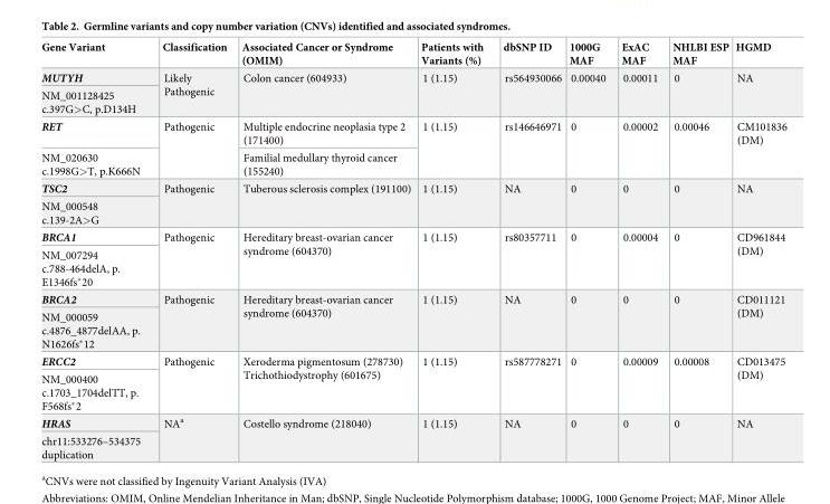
<table><thead><tr><td>Gene Variant</td><td>Classification</td><td>Associated Cancer or Syndrome (OMIM)</td><td>Patients with Variants (%)</td><td>dbSNP ID</td><td>1000G MAF</td><td>ExAC MAF</td><td>NHLBI ESP MAF</td><td>HGMD</td></tr></thead><tbody><tr><td>MUTYH</td><td rowspan="2">Likely Pathogenic</td><td rowspan="2">Colon cancer (604933)</td><td rowspan="2">1 (1.15)</td><td rowspan="2">rs564930066</td><td rowspan="2">0.00040</td><td rowspan="2">0.00011</td><td rowspan="2">0</td><td rowspan="2">NA</td></tr><tr><td>NM_001128425 c.397G&gt;C, p.D134H</td></tr><tr><td>RET</td><td rowspan="2">Pathogenic</td><td>Multiple endocrine neoplasia type 2 (171400)</td><td rowspan="2">1 (1.15)</td><td rowspan="2">rs146646971</td><td rowspan="2">0</td><td rowspan="2">0.00002</td><td rowspan="2">0.00046</td><td rowspan="2">CM101836 (DM)</td></tr><tr><td>NM_020630 c.1998G&gt;T, p.K666N</td><td>Familial medullary thyroid cancer (155240)</td></tr><tr><td>TSC2</td><td rowspan="2">Pathogenic</td><td rowspan="2">Tuberous sclerosis complex (191100)</td><td rowspan="2">1 (1.15)</td><td rowspan="2">NA</td><td rowspan="2">0</td><td rowspan="2">0</td><td rowspan="2">0</td><td rowspan="2">NA</td></tr><tr><td>NM_000548 c.139-2A&gt;G</td></tr><tr><td>BRCA1</td><td rowspan="2">Pathogenic</td><td rowspan="2">Hereditary breast-ovarian cancer syndrome (604370)</td><td rowspan="2">1 (1.15)</td><td rowspan="2">rs80357711</td><td rowspan="2">0</td><td rowspan="2">0.00004</td><td rowspan="2">0</td><td rowspan="2">CD961844 (DM)</td></tr><tr><td>NM_007294 c.788-464delA, p. E1346fs*20</td></tr><tr><td>BRCA2</td><td rowspan="2">Pathogenic</td><td rowspan="2">Hereditary breast-ovarian cancer syndrome (604370)</td><td rowspan="2">1 (1.15)</td><td rowspan="2">NA</td><td rowspan="2">0</td><td rowspan="2">0</td><td rowspan="2">0</td><td rowspan="2">CD011121 (DM)</td></tr><tr><td>NM_000059 c.4876_4877delAA, p. N1626fs*12</td></tr><tr><td>ERCC2</td><td rowspan="2">Pathogenic</td><td rowspan="2">Xeroderma pigmentosum (278730) Trichothiodystrophy (601675)</td><td rowspan="2">1 (1.15)</td><td rowspan="2">rs587778271</td><td rowspan="2">0</td><td rowspan="2">0.00009</td><td rowspan="2">0.00008</td><td rowspan="2">CD013475 (DM)</td></tr><tr><td>NM_000400 c.1703_1704delTT, p. F568fs*2</td></tr><tr><td>HRAS</td><td rowspan="2">NA<sup>a</sup></td><td rowspan="2">Costello syndrome (218040)</td><td rowspan="2">1 (1.15)</td><td rowspan="2">NA</td><td rowspan="2">0</td><td rowspan="2">0</td><td rowspan="2">0</td><td rowspan="2">NA</td></tr><tr><td>chr11:533276–534375 duplication</td></tr></tbody></table>